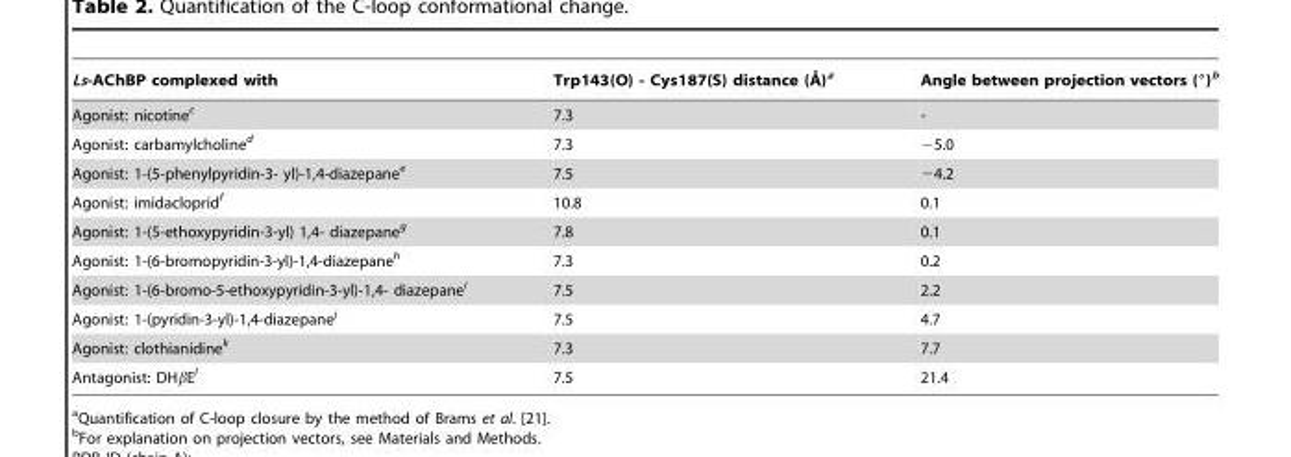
<table><thead><tr><td>Ls-AChBP complexed with</td><td>Trp143(O) - Cys187(S) distance (A˚ )a</td><td>Angle between projection vectors (°)<sup>b</sup></td></tr></thead><tbody><tr><td>Agonist: nicotine<sup>c</sup></td><td>7.3</td><td>-</td></tr><tr><td>Agonist: carbamylcholine<sup>d</sup></td><td>7.3</td><td>−5.0</td></tr><tr><td>Agonist: 1-(5-phenylpyridin-3- yl)-1,4-diazepane<sup>e</sup></td><td>7.5</td><td>−4.2</td></tr><tr><td>Agonist: imidacloprid<sup>f</sup></td><td>10.8</td><td>0.1</td></tr><tr><td>Agonist: 1-(5-ethoxypyridin-3-yl) 1,4- diazepane<sup>g</sup></td><td>7.8</td><td>0.1</td></tr><tr><td>Agonist: 1-(6-bromopyridin-3-yl)-1,4-diazepane<sup>h</sup></td><td>7.3</td><td>0.2</td></tr><tr><td>Agonist: 1-(6-bromo-5-ethoxypyridin-3-yl)-1,4- diazepane<sup>i</sup></td><td>7.5</td><td>2.2</td></tr><tr><td>Agonist: 1-(pyridin-3-yl)-1,4-diazepane<sup>j</sup></td><td>7.5</td><td>4.7</td></tr><tr><td>Agonist: clothianidine<sup>k</sup></td><td>7.3</td><td>7.7</td></tr><tr><td>Antagonist: DHβE<sup>l</sup></td><td>7.5</td><td>21.4</td></tr></tbody></table>